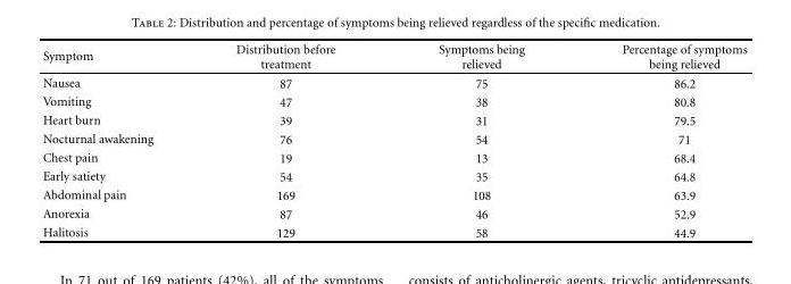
<table><thead><tr><td>Symptom</td><td>Distribution before treatment</td><td>Symptoms being relieved</td><td>Percentage of symptoms being relieved</td></tr></thead><tbody><tr><td>Nausea</td><td>87</td><td>75</td><td>86.2</td></tr><tr><td>Vomiting</td><td>47</td><td>38</td><td>80.8</td></tr><tr><td>Heart burn</td><td>39</td><td>31</td><td>79.5</td></tr><tr><td>Nocturnal awakening</td><td>76</td><td>54</td><td>71</td></tr><tr><td>Chest pain</td><td>19</td><td>13</td><td>68.4</td></tr><tr><td>Early satiety</td><td>54</td><td>35</td><td>64.8</td></tr><tr><td>Abdominal pain</td><td>169</td><td>108</td><td>63.9</td></tr><tr><td>Anorexia</td><td>87</td><td>46</td><td>52.9</td></tr><tr><td>Halitosis</td><td>129</td><td>58</td><td>44.9</td></tr></tbody></table>